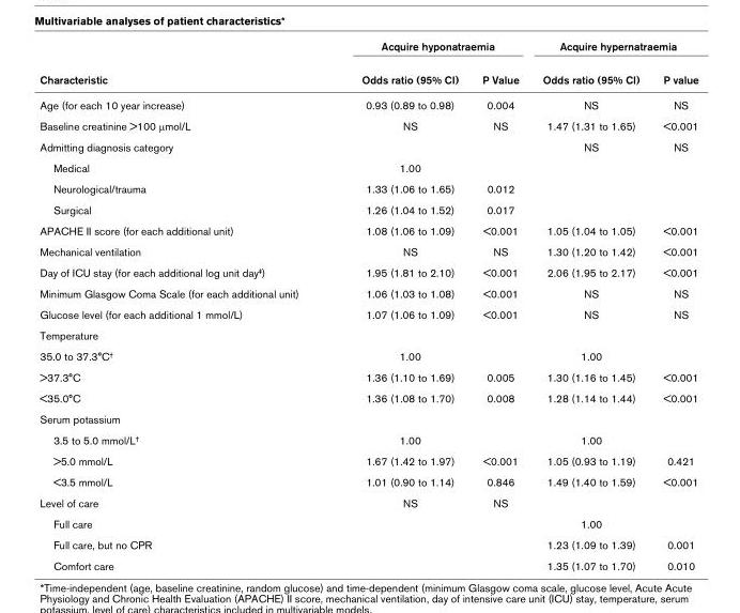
<table><thead><tr><td rowspan="2">Characteristic</td><td colspan="2">Acquire hyponatraemia</td><td colspan="2">Acquire hypernatraemia</td></tr><tr><td>Odds ratio (95% CI)</td><td>P Value</td><td>Odds ratio (95% CI)</td><td>P value</td></tr></thead><tbody><tr><td>Age (for each 10 year increase)</td><td>0.93 (0.89 to 0.98)</td><td>0.004</td><td>NS</td><td>NS</td></tr><tr><td>Baseline creatinine &gt;100 μmol/L</td><td>NS</td><td>NS</td><td>1.47 (1.31 to 1.65)</td><td>&lt;0.001</td></tr><tr><td>Admitting diagnosis category</td><td></td><td></td><td>NS</td><td>NS</td></tr><tr><td>Medical</td><td>1.00</td><td></td><td></td><td></td></tr><tr><td>Neurological/trauma</td><td>1.33 (1.06 to 1.65)</td><td>0.012</td><td></td><td></td></tr><tr><td>Surgical</td><td>1.26 (1.04 to 1.52)</td><td>0.017</td><td></td><td></td></tr><tr><td>APACHE II score (for each additional unit)</td><td>1.08 (1.06 to 1.09)</td><td>&lt;0.001</td><td>1.05 (1.04 to 1.05)</td><td>&lt;0.001</td></tr><tr><td>Mechanical ventilation</td><td>NS</td><td>NS</td><td>1.30 (1.20 to 1.42)</td><td>&lt;0.001</td></tr><tr><td>Day of ICU stay (for each additional log unit day<sup>‡</sup>)</td><td>1.95 (1.81 to 2.10)</td><td>&lt;0.001</td><td>2.06 (1.95 to 2.17)</td><td>&lt;0.001</td></tr><tr><td>Minimum Glasgow Coma Scale (for each additional unit)</td><td>1.06 (1.03 to 1.08)</td><td>&lt;0.001</td><td>NS</td><td>NS</td></tr><tr><td>Glucose level (for each additional 1 mmol/L)</td><td>1.07 (1.06 to 1.09)</td><td>&lt;0.001</td><td>NS</td><td>NS</td></tr><tr><td colspan="5">Temperature</td></tr><tr><td>35.0 to 37.3°C<sup>†</sup></td><td>1.00</td><td></td><td>1.00</td><td></td></tr><tr><td>&gt;37.3°C</td><td>1.36 (1.10 to 1.69)</td><td>0.005</td><td>1.30 (1.16 to 1.45)</td><td>&lt;0.001</td></tr><tr><td>&lt;35.0°C</td><td>1.36 (1.08 to 1.70)</td><td>0.008</td><td>1.28 (1.14 to 1.44)</td><td>&lt;0.001</td></tr><tr><td colspan="5">Serum potassium</td></tr><tr><td>3.5 to 5.0 mmol/L<sup>†</sup></td><td>1.00</td><td></td><td>1.00</td><td></td></tr><tr><td>&gt;5.0 mmol/L</td><td>1.67 (1.42 to 1.97)</td><td>&lt;0.001</td><td>1.05 (0.93 to 1.19)</td><td>0.421</td></tr><tr><td>&lt;3.5 mmol/L</td><td>1.01 (0.90 to 1.14)</td><td>0.846</td><td>1.49 (1.40 to 1.59)</td><td>&lt;0.001</td></tr><tr><td>Level of care</td><td>NS</td><td>NS</td><td></td><td></td></tr><tr><td>Full care</td><td></td><td></td><td>1.00</td><td></td></tr><tr><td>Full care, but no CPR</td><td></td><td></td><td>1.23 (1.09 to 1.39)</td><td>0.001</td></tr><tr><td>Comfort care</td><td></td><td></td><td>1.35 (1.07 to 1.70)</td><td>0.010</td></tr></tbody></table>